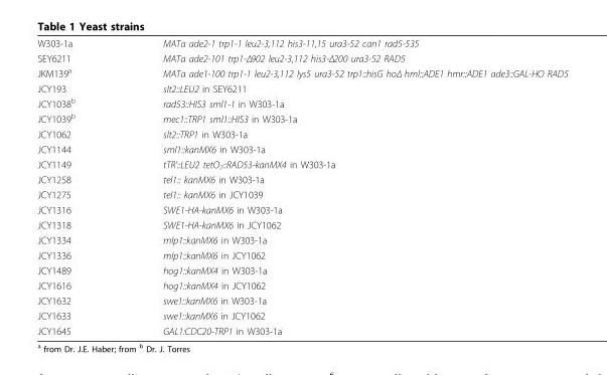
<table><tbody><tr><td>W303-1a</td><td>MATa ade2-1 trp1-1 leu2-3,112 his3-11,15 ura3-52 can1 rad5-535</td></tr><tr><td>SEY6211</td><td>MATa ade2-101 trp1-Δ902 leu2-3,112 his3-Δ200 ura3-52 RAD5</td></tr><tr><td>JKM139<sup>a</sup></td><td>MATa ade1-100 trp1-1 leu2-3,112 lys5 ura3-52 trp1::hisG hoΔ hml::ADE1 hmr::ADE1 ade3::GAL-HO RAD5</td></tr><tr><td>JCY193</td><td>slt2::LEU2 in SEY6211</td></tr><tr><td>JCY1038<sup>b</sup></td><td>rad53::HIS3 sml1-1 in W303-1a</td></tr><tr><td>JCY1039<sup>b</sup></td><td>mec1::TRP1 sml1::HIS3 in W303-1a</td></tr><tr><td>JCY1062</td><td>slt2::TRP1 in W303-1a</td></tr><tr><td>JCY1144</td><td>sml1::kanMX6 in W303-1a</td></tr><tr><td>JCY1149</td><td>tTR’::LEU2 tetO<sub>7</sub>::RAD53-kanMX4 in W303-1a</td></tr><tr><td>JCY1258</td><td>tel1:: kanMX6 in W303-1a</td></tr><tr><td>JCY1275</td><td>tel1:: kanMX6 in JCY1039</td></tr><tr><td>JCY1316</td><td>SWE1-HA-kanMX6 in W303-1a</td></tr><tr><td>JCY1318</td><td>SWE1-HA-kanMX6 in JCY1062</td></tr><tr><td>JCY1334</td><td>mlp1::kanMX6 in W303-1a</td></tr><tr><td>JCY1336</td><td>mlp1::kanMX6 in JCY1062</td></tr><tr><td>JCY1489</td><td>hog1::kanMX4 in W303-1a</td></tr><tr><td>JCY1616</td><td>hog1::kanMX4 in JCY1062</td></tr><tr><td>JCY1632</td><td>swe1::kanMX6 in W303-1a</td></tr><tr><td>JCY1633</td><td>swe1::kanMX6 in JCY1062</td></tr><tr><td>JCY1645</td><td>GAL1:CDC20-TRP1 in W303-1a</td></tr></tbody></table>